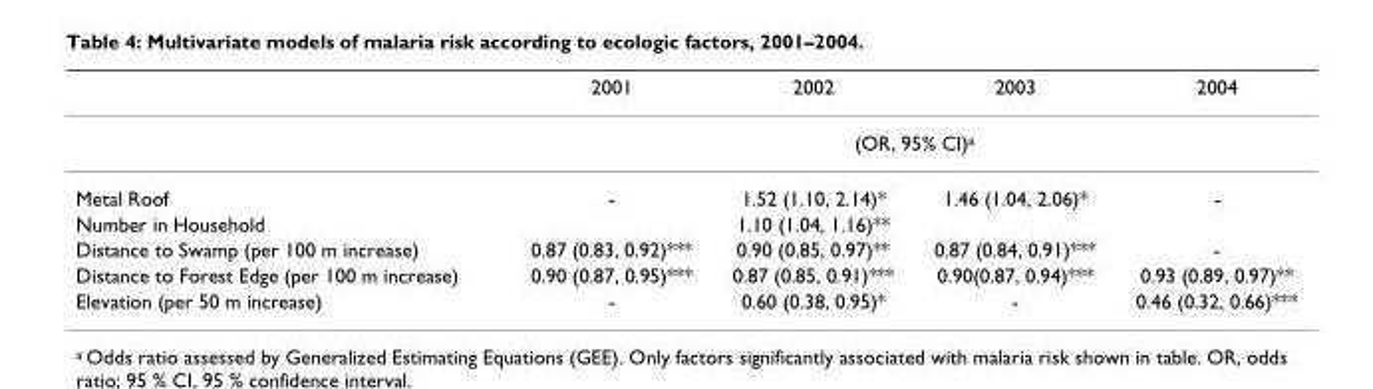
<table><thead><tr><td></td><td>2001</td><td>2002</td><td>2003</td><td>2004</td></tr></thead><tbody><tr><td></td><td colspan="4">(OR, 95% CI)<sup>a</sup></td></tr><tr><td>Metal Roof</td><td>-</td><td>1.52 (1.10, 2.14)*</td><td>1.46 (1.04, 2.06)*</td><td>-</td></tr><tr><td>Number in Household</td><td></td><td>1.10 (1.04, 1.16)**</td><td></td><td></td></tr><tr><td>Distance to Swamp (per 100 m increase)</td><td>0.87 (0.83, 0.92)***</td><td>0.90 (0.85, 0.97)**</td><td>0.87 (0.84, 0.91)***</td><td>-</td></tr><tr><td>Distance to Forest Edge (per 100 m increase)</td><td>0.90 (0.87, 0.95)***</td><td>0.87 (0.85, 0.91)***</td><td>0.90(0.87, 0.94)***</td><td>0.93 (0.89, 0.97)**</td></tr><tr><td>Elevation (per 50 m increase)</td><td>-</td><td>0.60 (0.38, 0.95)*</td><td>-</td><td>0.46 (0.32, 0.66)***</td></tr></tbody></table>